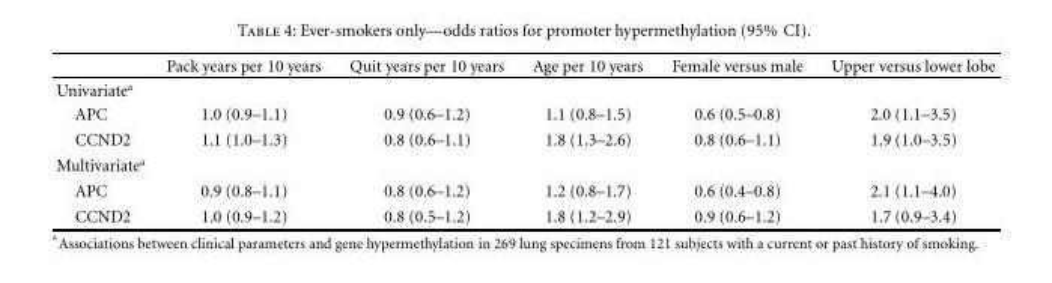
<table><thead><tr><td></td><td>Pack years per 10 years</td><td>Quit years per 10 years</td><td>Age per 10 years</td><td>Female versus male</td><td>Upper versus lower lobe</td></tr></thead><tbody><tr><td colspan="6">Univariate<sup>a</sup></td></tr><tr><td>APC</td><td>1.0 (0.9–1.1)</td><td>0.9 (0.6–1.2)</td><td>1.1 (0.8–1.5)</td><td>0.6 (0.5–0.8)</td><td>2.0 (1.1–3.5)</td></tr><tr><td>CCND2</td><td>1.1 (1.0–1.3)</td><td>0.8 (0.6–1.1)</td><td>1.8 (1.3–2.6)</td><td>0.8 (0.6–1.1)</td><td>1.9 (1.0–3.5)</td></tr><tr><td colspan="6">Multivariate<sup>a</sup></td></tr><tr><td>APC</td><td>0.9 (0.8–1.1)</td><td>0.8 (0.6–1.2)</td><td>1.2 (0.8–1.7)</td><td>0.6 (0.4–0.8)</td><td>2.1 (1.1–4.0)</td></tr><tr><td>CCND2</td><td>1.0 (0.9–1.2)</td><td>0.8 (0.5–1.2)</td><td>1.8 (1.2–2.9)</td><td>0.9 (0.6–1.2)</td><td>1.7 (0.9–3.4)</td></tr></tbody></table>